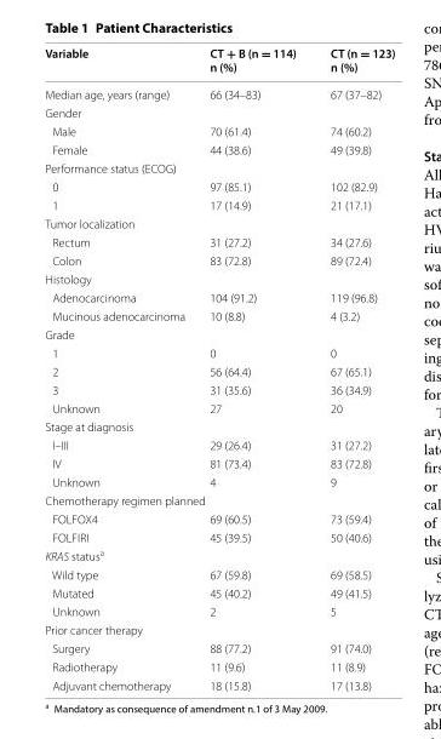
<table><thead><tr><td>Variable</td><td>CT + B (n = 114) n (%)</td><td>CT (n = 123) n (%)</td></tr></thead><tbody><tr><td>Median age, years (range)</td><td>66 (34–83)</td><td>67 (37–82)</td></tr><tr><td colspan="3">Gender</td></tr><tr><td>Male</td><td>70 (61.4)</td><td>74 (60.2)</td></tr><tr><td>Female</td><td>44 (38.6)</td><td>49 (39.8)</td></tr><tr><td colspan="3">Performance status (ECOG)</td></tr><tr><td>0</td><td>97 (85.1)</td><td>102 (82.9)</td></tr><tr><td>1</td><td>17 (14.9)</td><td>21 (17.1)</td></tr><tr><td colspan="3">Tumor localization</td></tr><tr><td>Rectum</td><td>31 (27.2)</td><td>34 (27.6)</td></tr><tr><td>Colon</td><td>83 (72.8)</td><td>89 (72.4)</td></tr><tr><td colspan="3">Histology</td></tr><tr><td>Adenocarcinoma</td><td>104 (91.2)</td><td>119 (96.8)</td></tr><tr><td>Mucinous adenocarcinoma</td><td>10 (8.8)</td><td>4 (3.2)</td></tr><tr><td colspan="3">Grade</td></tr><tr><td>1</td><td>0</td><td>0</td></tr><tr><td>2</td><td>56 (64.4)</td><td>67 (65.1)</td></tr><tr><td>3</td><td>31 (35.6)</td><td>36 (34.9)</td></tr><tr><td>Unknown</td><td>27</td><td>20</td></tr><tr><td colspan="3">Stage at diagnosis</td></tr><tr><td>I–III</td><td>29 (26.4)</td><td>31 (27.2)</td></tr><tr><td>IV</td><td>81 (73.4)</td><td>83 (72.8)</td></tr><tr><td>Unknown</td><td>4</td><td>9</td></tr><tr><td colspan="3">Chemotherapy regimen planned</td></tr><tr><td>FOLFOX4</td><td>69 (60.5)</td><td>73 (59.4)</td></tr><tr><td>FOLFIRI</td><td>45 (39.5)</td><td>50 (40.6)</td></tr><tr><td colspan="3">KRAS status<sup>a</sup></td></tr><tr><td>Wild type</td><td>67 (59.8)</td><td>69 (58.5)</td></tr><tr><td>Mutated</td><td>45 (40.2)</td><td>49 (41.5)</td></tr><tr><td>Unknown</td><td>2</td><td>5</td></tr><tr><td colspan="3">Prior cancer therapy</td></tr><tr><td>Surgery</td><td>88 (77.2)</td><td>91 (74.0)</td></tr><tr><td>Radiotherapy</td><td>11 (9.6)</td><td>11 (8.9)</td></tr><tr><td>Adjuvant chemotherapy</td><td>18 (15.8)</td><td>17 (13.8)</td></tr></tbody></table>